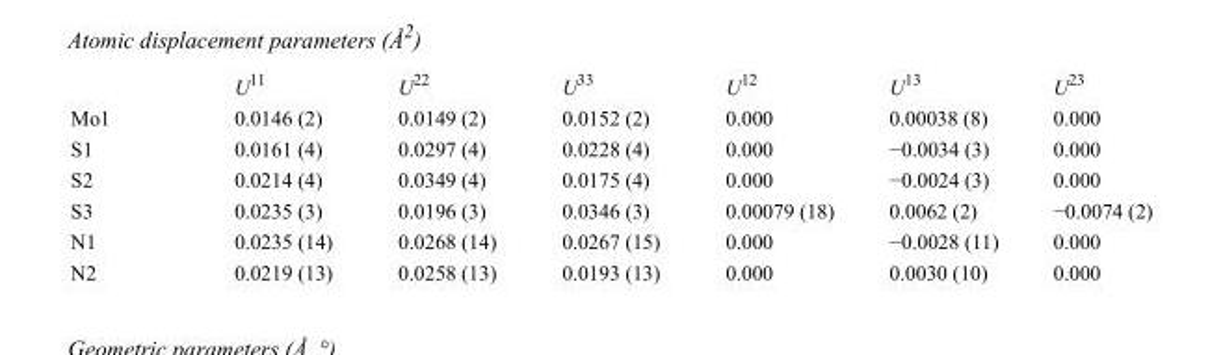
<table><thead><tr><td></td><td>U<sup>11</sup></td><td>U<sup>22</sup></td><td>U<sup>33</sup></td><td>U<sup>12</sup></td><td>U<sup>13</sup></td><td>U<sup>23</sup></td></tr></thead><tbody><tr><td>Mo1</td><td>0.0146 (2)</td><td>0.0149 (2)</td><td>0.0152 (2)</td><td>0.000</td><td>0.00038 (8)</td><td>0.000</td></tr><tr><td>S1</td><td>0.0161 (4)</td><td>0.0297 (4)</td><td>0.0228 (4)</td><td>0.000</td><td>−0.0034 (3)</td><td>0.000</td></tr><tr><td>S2</td><td>0.0214 (4)</td><td>0.0349 (4)</td><td>0.0175 (4)</td><td>0.000</td><td>−0.0024 (3)</td><td>0.000</td></tr><tr><td>S3</td><td>0.0235 (3)</td><td>0.0196 (3)</td><td>0.0346 (3)</td><td>0.00079 (18)</td><td>0.0062 (2)</td><td>−0.0074 (2)</td></tr><tr><td>N1</td><td>0.0235 (14)</td><td>0.0268 (14)</td><td>0.0267 (15)</td><td>0.000</td><td>−0.0028 (11)</td><td>0.000</td></tr><tr><td>N2</td><td>0.0219 (13)</td><td>0.0258 (13)</td><td>0.0193 (13)</td><td>0.000</td><td>0.0030 (10)</td><td>0.000</td></tr></tbody></table>